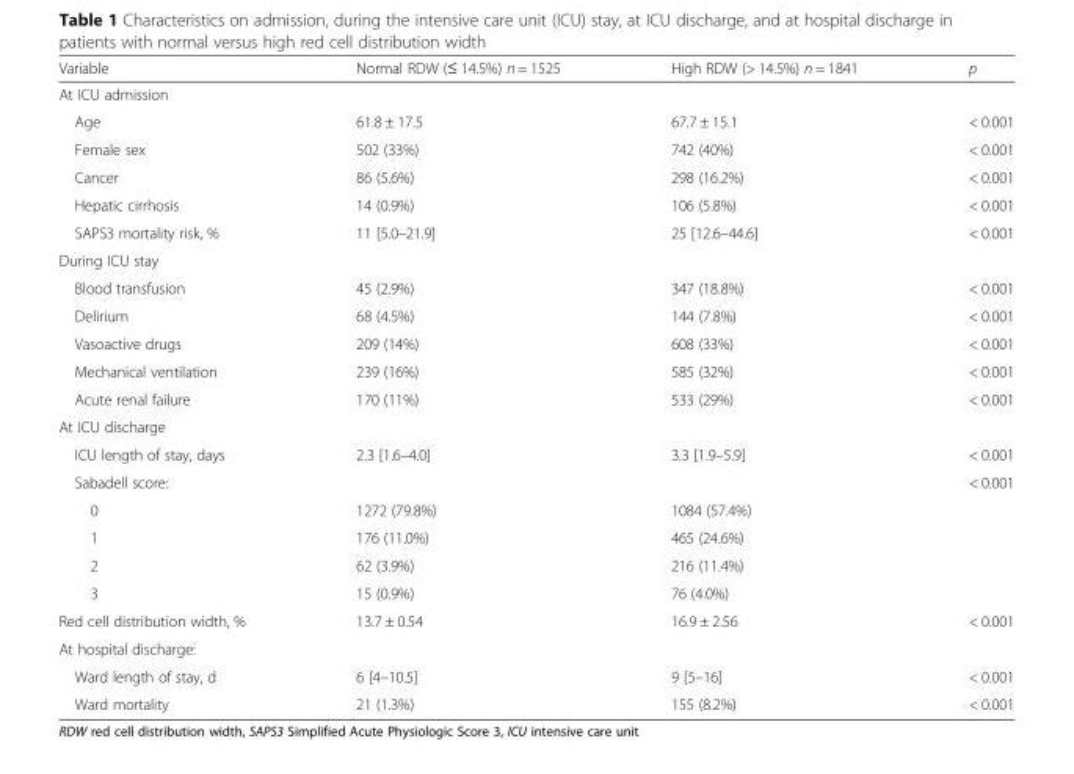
<table><thead><tr><td>Variable</td><td>Normal RDW (≤ 14.5%) n = 1525</td><td>High RDW (&gt; 14.5%) n = 1841</td><td>p</td></tr></thead><tbody><tr><td colspan="4">At ICU admission</td></tr><tr><td>Age</td><td>61.8 ± 17.5</td><td>67.7 ± 15.1</td><td>&lt; 0.001</td></tr><tr><td>Female sex</td><td>502 (33%)</td><td>742 (40%)</td><td>&lt; 0.001</td></tr><tr><td>Cancer</td><td>86 (5.6%)</td><td>298 (16.2%)</td><td>&lt; 0.001</td></tr><tr><td>Hepatic cirrhosis</td><td>14 (0.9%)</td><td>106 (5.8%)</td><td>&lt; 0.001</td></tr><tr><td>SAPS3 mortality risk, %</td><td>11 [5.0–21.9]</td><td>25 [12.6–44.6]</td><td>&lt; 0.001</td></tr><tr><td colspan="4">During ICU stay</td></tr><tr><td>Blood transfusion</td><td>45 (2.9%)</td><td>347 (18.8%)</td><td>&lt; 0.001</td></tr><tr><td>Delirium</td><td>68 (4.5%)</td><td>144 (7.8%)</td><td>&lt; 0.001</td></tr><tr><td>Vasoactive drugs</td><td>209 (14%)</td><td>608 (33%)</td><td>&lt; 0.001</td></tr><tr><td>Mechanical ventilation</td><td>239 (16%)</td><td>585 (32%)</td><td>&lt; 0.001</td></tr><tr><td>Acute renal failure</td><td>170 (11%)</td><td>533 (29%)</td><td>&lt; 0.001</td></tr><tr><td colspan="4">At ICU discharge</td></tr><tr><td>ICU length of stay, days</td><td>2.3 [1.6–4.0]</td><td>3.3 [1.9–5.9]</td><td>&lt; 0.001</td></tr><tr><td>Sabadell score:</td><td></td><td></td><td>&lt; 0.001</td></tr><tr><td>0</td><td>1272 (79.8%)</td><td>1084 (57.4%)</td><td></td></tr><tr><td>1</td><td>176 (11.0%)</td><td>465 (24.6%)</td><td></td></tr><tr><td>2</td><td>62 (3.9%)</td><td>216 (11.4%)</td><td></td></tr><tr><td>3</td><td>15 (0.9%)</td><td>76 (4.0%)</td><td></td></tr><tr><td>Red cell distribution width, %</td><td>13.7 ± 0.54</td><td>16.9 ± 2.56</td><td>&lt; 0.001</td></tr><tr><td colspan="4">At hospital discharge:</td></tr><tr><td>Ward length of stay, d</td><td>6 [4–10.5]</td><td>9 [5–16]</td><td>&lt; 0.001</td></tr><tr><td>Ward mortality</td><td>21 (1.3%)</td><td>155 (8.2%)</td><td>&lt; 0.001</td></tr></tbody></table>